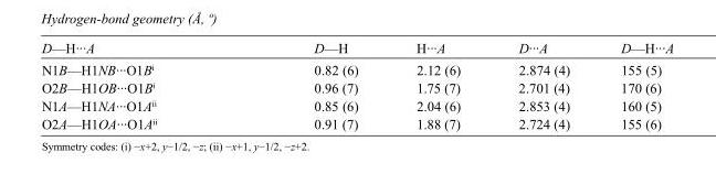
<table><tbody><tr><td>D—H···A</td><td>D—H</td><td>H···A</td><td>D···A</td><td>D—H···A</td></tr><tr><td>N1B—H1NB···O1B<sup>i</sup></td><td>0.82 (6)</td><td>2.12 (6)</td><td>2.874 (4)</td><td>155 (5)</td></tr><tr><td>O2B—H1OB···O1B<sup>i</sup></td><td>0.96 (7)</td><td>1.75 (7)</td><td>2.701 (4)</td><td>170 (6)</td></tr><tr><td>N1A—H1NA···O1A<sup>ii</sup></td><td>0.85 (6)</td><td>2.04 (6)</td><td>2.853 (4)</td><td>160 (5)</td></tr><tr><td>O2A—H1OA···O1A<sup>ii</sup></td><td>0.91 (7)</td><td>1.88 (7)</td><td>2.724 (4)</td><td>155 (6)</td></tr></tbody></table>